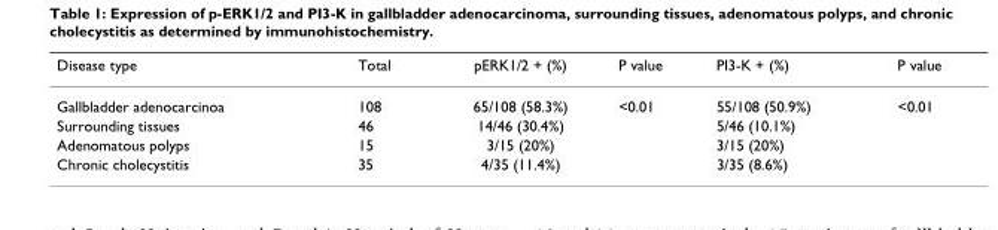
<table><thead><tr><td>Disease type</td><td>Total</td><td>pERK1/2 + (%)</td><td>P value</td><td>PI3-K + (%)</td><td>P value</td></tr></thead><tbody><tr><td>Gallbladder adenocarcinoa</td><td>108</td><td>65/108 (58.3%)</td><td>&lt;0.01</td><td>55/108 (50.9%)</td><td>&lt;0.01</td></tr><tr><td>Surrounding tissues</td><td>46</td><td>14/46 (30.4%)</td><td></td><td>5/46 (10.1%)</td><td></td></tr><tr><td>Adenomatous polyps</td><td>15</td><td>3/15 (20%)</td><td></td><td>3/15 (20%)</td><td></td></tr><tr><td>Chronic cholecystitis</td><td>35</td><td>4/35 (11.4%)</td><td></td><td>3/35 (8.6%)</td><td></td></tr></tbody></table>